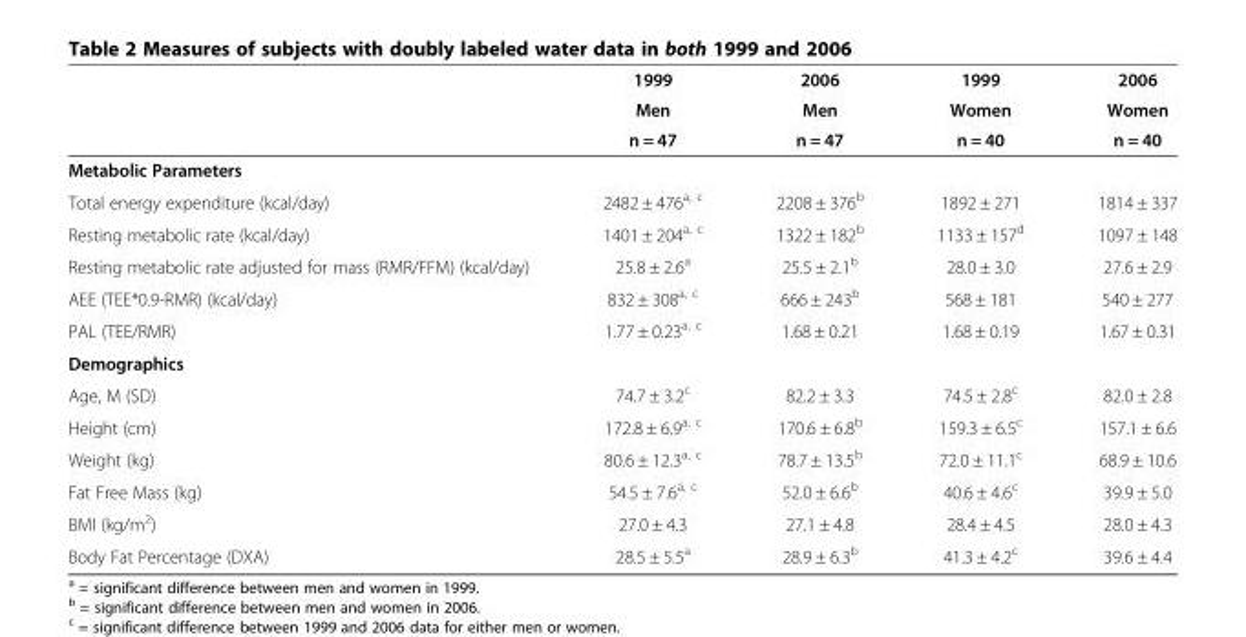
<table><thead><tr><td rowspan="3"></td><td rowspan="3">1999 Men n = 47</td><td rowspan="3">2006 Men n = 47</td><td rowspan="3">1999 Women n = 40</td><td rowspan="3">2006 Women n = 40</td></tr><tr></tr><tr></tr></thead><tbody><tr><td colspan="5">Metabolic Parameters</td></tr><tr><td>Total energy expenditure (kcal/day)</td><td>2482 ± 476<sup>a, c</sup></td><td>2208 ± 376<sup>b</sup></td><td>1892 ± 271</td><td>1814 ± 337</td></tr><tr><td>Resting metabolic rate (kcal/day)</td><td>1401 ± 204<sup>a, c</sup></td><td>1322 ± 182<sup>b</sup></td><td>1133 ± 157<sup>d</sup></td><td>1097 ± 148</td></tr><tr><td>Resting metabolic rate adjusted for mass (RMR/FFM) (kcal/day)</td><td>25.8 ± 2.6<sup>a</sup></td><td>25.5 ± 2.1<sup>b</sup></td><td>28.0 ± 3.0</td><td>27.6 ± 2.9</td></tr><tr><td>AEE (TEE*0.9-RMR) (kcal/day)</td><td>832 ± 308<sup>a, c</sup></td><td>666 ± 243<sup>b</sup></td><td>568 ± 181</td><td>540 ± 277</td></tr><tr><td>PAL (TEE/RMR)</td><td>1.77 ± 0.23<sup>a, c</sup></td><td>1.68 ± 0.21</td><td>1.68 ± 0.19</td><td>1.67 ± 0.31</td></tr><tr><td colspan="5">Demographics</td></tr><tr><td>Age, M (SD)</td><td>74.7 ± 3.2<sup>c</sup></td><td>82.2 ± 3.3</td><td>74.5 ± 2.8<sup>c</sup></td><td>82.0 ± 2.8</td></tr><tr><td>Height (cm)</td><td>172.8 ± 6.9<sup>a, c</sup></td><td>170.6 ± 6.8<sup>b</sup></td><td>159.3 ± 6.5<sup>c</sup></td><td>157.1 ± 6.6</td></tr><tr><td>Weight (kg)</td><td>80.6 ± 12.3<sup>a, c</sup></td><td>78.7 ± 13.5<sup>b</sup></td><td>72.0 ± 11.1<sup>c</sup></td><td>68.9 ± 10.6</td></tr><tr><td>Fat Free Mass (kg)</td><td>54.5 ± 7.6<sup>a, c</sup></td><td>52.0 ± 6.6<sup>b</sup></td><td>40.6 ± 4.6<sup>c</sup></td><td>39.9 ± 5.0</td></tr><tr><td>BMI (kg/m<sup>2</sup>)</td><td>27.0 ± 4.3</td><td>27.1 ± 4.8</td><td>28.4 ± 4.5</td><td>28.0 ± 4.3</td></tr><tr><td>Body Fat Percentage (DXA)</td><td>28.5 ± 5.5<sup>a</sup></td><td>28.9 ± 6.3<sup>b</sup></td><td>41.3 ± 4.2<sup>c</sup></td><td>39.6 ± 4.4</td></tr></tbody></table>